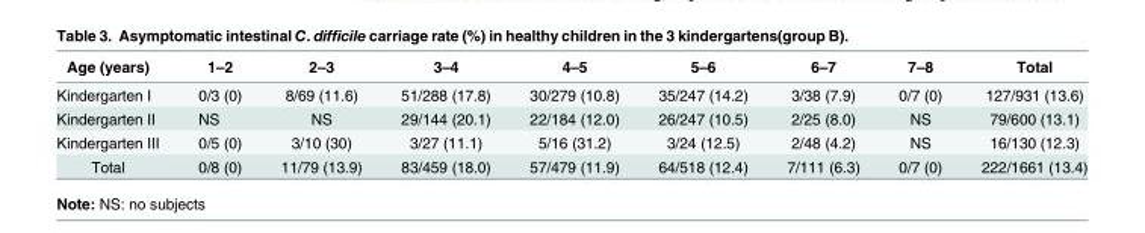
<table><thead><tr><td>Age (years)</td><td>1–2</td><td>2–3</td><td>3–4</td><td>4–5</td><td>5–6</td><td>6–7</td><td>7–8</td><td>Total</td></tr></thead><tbody><tr><td>Kindergarten I</td><td>0/3 (0)</td><td>8/69 (11.6)</td><td>51/288 (17.8)</td><td>30/279 (10.8)</td><td>35/247 (14.2)</td><td>3/38 (7.9)</td><td>0/7 (0)</td><td>127/931 (13.6)</td></tr><tr><td>Kindergarten II</td><td>NS</td><td>NS</td><td>29/144 (20.1)</td><td>22/184 (12.0)</td><td>26/247 (10.5)</td><td>2/25 (8.0)</td><td>NS</td><td>79/600 (13.1)</td></tr><tr><td>Kindergarten III</td><td>0/5 (0)</td><td>3/10 (30)</td><td>3/27 (11.1)</td><td>5/16 (31.2)</td><td>3/24 (12.5)</td><td>2/48 (4.2)</td><td>NS</td><td>16/130 (12.3)</td></tr><tr><td>Total</td><td>0/8 (0)</td><td>11/79 (13.9)</td><td>83/459 (18.0)</td><td>57/479 (11.9)</td><td>64/518 (12.4)</td><td>7/111 (6.3)</td><td>0/7 (0)</td><td>222/1661 (13.4)</td></tr></tbody></table>